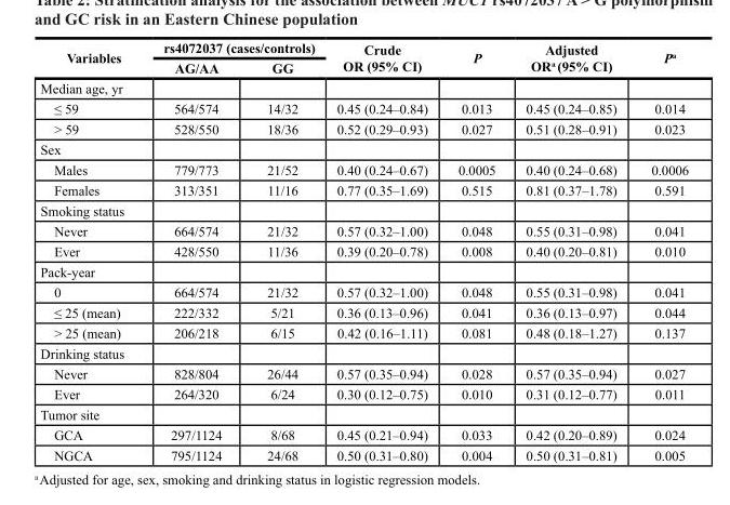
<table><thead><tr><td rowspan="2">Variables</td><td colspan="2">rs4072037 (cases/controls)</td><td rowspan="2">Crude OR (95% CI)</td><td rowspan="2">P</td><td rowspan="2">Adjusted OR<sup>a</sup> (95% CI)</td><td rowspan="2">P<sup>a</sup></td></tr><tr><td>AG/AA</td><td>GG</td></tr></thead><tbody><tr><td colspan="7">Median age, yr</td></tr><tr><td>≤ 59</td><td>564/574</td><td>14/32</td><td>0.45 (0.24–0.84)</td><td>0.013</td><td>0.45 (0.24–0.85)</td><td>0.014</td></tr><tr><td>&gt; 59</td><td>528/550</td><td>18/36</td><td>0.52 (0.29–0.93)</td><td>0.027</td><td>0.51 (0.28–0.91)</td><td>0.023</td></tr><tr><td colspan="7">Sex</td></tr><tr><td>Males</td><td>779/773</td><td>21/52</td><td>0.40 (0.24–0.67)</td><td>0.0005</td><td>0.40 (0.24–0.68)</td><td>0.0006</td></tr><tr><td>Females</td><td>313/351</td><td>11/16</td><td>0.77 (0.35–1.69)</td><td>0.515</td><td>0.81 (0.37–1.78)</td><td>0.591</td></tr><tr><td colspan="7">Smoking status</td></tr><tr><td>Never</td><td>664/574</td><td>21/32</td><td>0.57 (0.32–1.00)</td><td>0.048</td><td>0.55 (0.31–0.98)</td><td>0.041</td></tr><tr><td>Ever</td><td>428/550</td><td>11/36</td><td>0.39 (0.20–0.78)</td><td>0.008</td><td>0.40 (0.20–0.81)</td><td>0.010</td></tr><tr><td colspan="7">Pack-year</td></tr><tr><td>0</td><td>664/574</td><td>21/32</td><td>0.57 (0.32–1.00)</td><td>0.048</td><td>0.55 (0.31–0.98)</td><td>0.041</td></tr><tr><td>≤ 25 (mean)</td><td>222/332</td><td>5/21</td><td>0.36 (0.13–0.96)</td><td>0.041</td><td>0.36 (0.13–0.97)</td><td>0.044</td></tr><tr><td>&gt; 25 (mean)</td><td>206/218</td><td>6/15</td><td>0.42 (0.16–1.11)</td><td>0.081</td><td>0.48 (0.18–1.27)</td><td>0.137</td></tr><tr><td colspan="7">Drinking status</td></tr><tr><td>Never</td><td>828/804</td><td>26/44</td><td>0.57 (0.35–0.94)</td><td>0.028</td><td>0.57 (0.35–0.94)</td><td>0.027</td></tr><tr><td>Ever</td><td>264/320</td><td>6/24</td><td>0.30 (0.12–0.75)</td><td>0.010</td><td>0.31 (0.12–0.77)</td><td>0.011</td></tr><tr><td colspan="7">Tumor site</td></tr><tr><td>GCA</td><td>297/1124</td><td>8/68</td><td>0.45 (0.21–0.94)</td><td>0.033</td><td>0.42 (0.20–0.89)</td><td>0.024</td></tr><tr><td>NGCA</td><td>795/1124</td><td>24/68</td><td>0.50 (0.31–0.80)</td><td>0.004</td><td>0.50 (0.31–0.81)</td><td>0.005</td></tr></tbody></table>